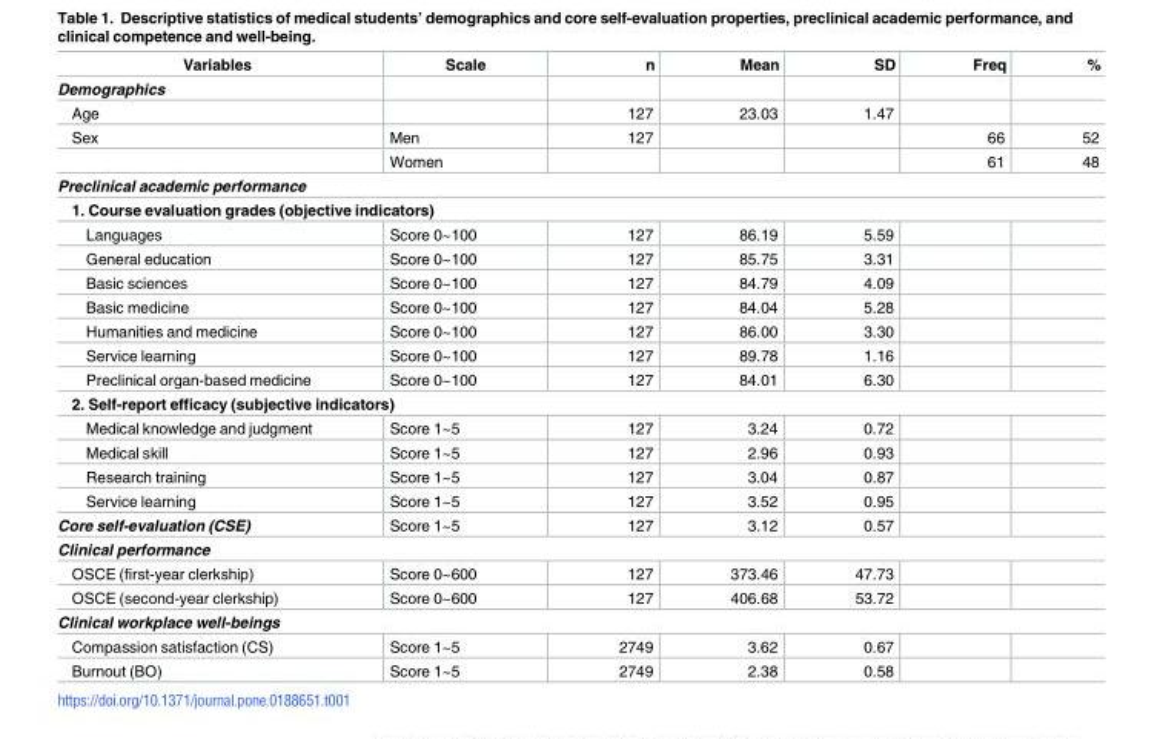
<table><thead><tr><td>Variables</td><td>Scale</td><td>n</td><td>Mean</td><td>SD</td><td>Freq</td><td>%</td></tr></thead><tbody><tr><td colspan="7">Demographics</td></tr><tr><td>Age</td><td></td><td>127</td><td>23.03</td><td>1.47</td><td></td><td></td></tr><tr><td rowspan="2">Sex</td><td>Men</td><td>127</td><td></td><td></td><td>66</td><td>52</td></tr><tr><td>Women</td><td></td><td></td><td></td><td>61</td><td>48</td></tr><tr><td colspan="7">Preclinical academic performance</td></tr><tr><td colspan="7">1. Course evaluation grades (objective indicators)</td></tr><tr><td>Languages</td><td>Score 0~100</td><td>127</td><td>86.19</td><td>5.59</td><td></td><td></td></tr><tr><td>General education</td><td>Score 0~100</td><td>127</td><td>85.75</td><td>3.31</td><td></td><td></td></tr><tr><td>Basic sciences</td><td>Score 0~100</td><td>127</td><td>84.79</td><td>4.09</td><td></td><td></td></tr><tr><td>Basic medicine</td><td>Score 0~100</td><td>127</td><td>84.04</td><td>5.28</td><td></td><td></td></tr><tr><td>Humanities and medicine</td><td>Score 0~100</td><td>127</td><td>86.00</td><td>3.30</td><td></td><td></td></tr><tr><td>Service learning</td><td>Score 0~100</td><td>127</td><td>89.78</td><td>1.16</td><td></td><td></td></tr><tr><td>Preclinical organ-based medicine</td><td>Score 0~100</td><td>127</td><td>84.01</td><td>6.30</td><td></td><td></td></tr><tr><td colspan="7">2. Self-report efficacy (subjective indicators)</td></tr><tr><td>Medical knowledge and judgment</td><td>Score 1~5</td><td>127</td><td>3.24</td><td>0.72</td><td></td><td></td></tr><tr><td>Medical skill</td><td>Score 1~5</td><td>127</td><td>2.96</td><td>0.93</td><td></td><td></td></tr><tr><td>Research training</td><td>Score 1~5</td><td>127</td><td>3.04</td><td>0.87</td><td></td><td></td></tr><tr><td>Service learning</td><td>Score 1~5</td><td>127</td><td>3.52</td><td>0.95</td><td></td><td></td></tr><tr><td>Core self-evaluation (CSE)</td><td>Score 1~5</td><td>127</td><td>3.12</td><td>0.57</td><td></td><td></td></tr><tr><td colspan="7">Clinical performance</td></tr><tr><td>OSCE (first-year clerkship)</td><td>Score 0~600</td><td>127</td><td>373.46</td><td>47.73</td><td></td><td></td></tr><tr><td>OSCE (second-year clerkship)</td><td>Score 0~600</td><td>127</td><td>406.68</td><td>53.72</td><td></td><td></td></tr><tr><td colspan="7">Clinical workplace well-beings</td></tr><tr><td>Compassion satisfaction (CS)</td><td>Score 1~5</td><td>2749</td><td>3.62</td><td>0.67</td><td></td><td></td></tr><tr><td>Burnout (BO)</td><td>Score 1~5</td><td>2749</td><td>2.38</td><td>0.58</td><td></td><td></td></tr></tbody></table>